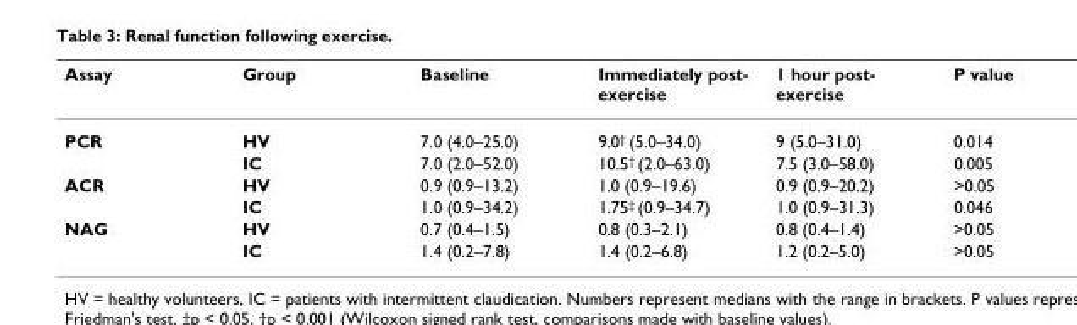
<table><thead><tr><td>Assay</td><td>Group</td><td>Baseline</td><td>Immediately post- exercise</td><td>1 hour post- exercise</td><td>P value</td></tr></thead><tbody><tr><td rowspan="2">PCR</td><td>HV</td><td>7.0 (4.0–25.0)</td><td>9.0<sup>†</sup> (5.0–34.0)</td><td>9 (5.0–31.0)</td><td>0.014</td></tr><tr><td>IC</td><td>7.0 (2.0–52.0)</td><td>10.5<sup>†</sup> (2.0–63.0)</td><td>7.5 (3.0–58.0)</td><td>0.005</td></tr><tr><td rowspan="2">ACR</td><td>HV</td><td>0.9 (0.9–13.2)</td><td>1.0 (0.9–19.6)</td><td>0.9 (0.9–20.2)</td><td>&gt;0.05</td></tr><tr><td>IC</td><td>1.0 (0.9–34.2)</td><td>1.75<sup>‡</sup> (0.9–34.7)</td><td>1.0 (0.9–31.3)</td><td>0.046</td></tr><tr><td rowspan="2">NAG</td><td>HV</td><td>0.7 (0.4–1.5)</td><td>0.8 (0.3–2.1)</td><td>0.8 (0.4–1.4)</td><td>&gt;0.05</td></tr><tr><td>IC</td><td>1.4 (0.2–7.8)</td><td>1.4 (0.2–6.8)</td><td>1.2 (0.2–5.0)</td><td>&gt;0.05</td></tr></tbody></table>